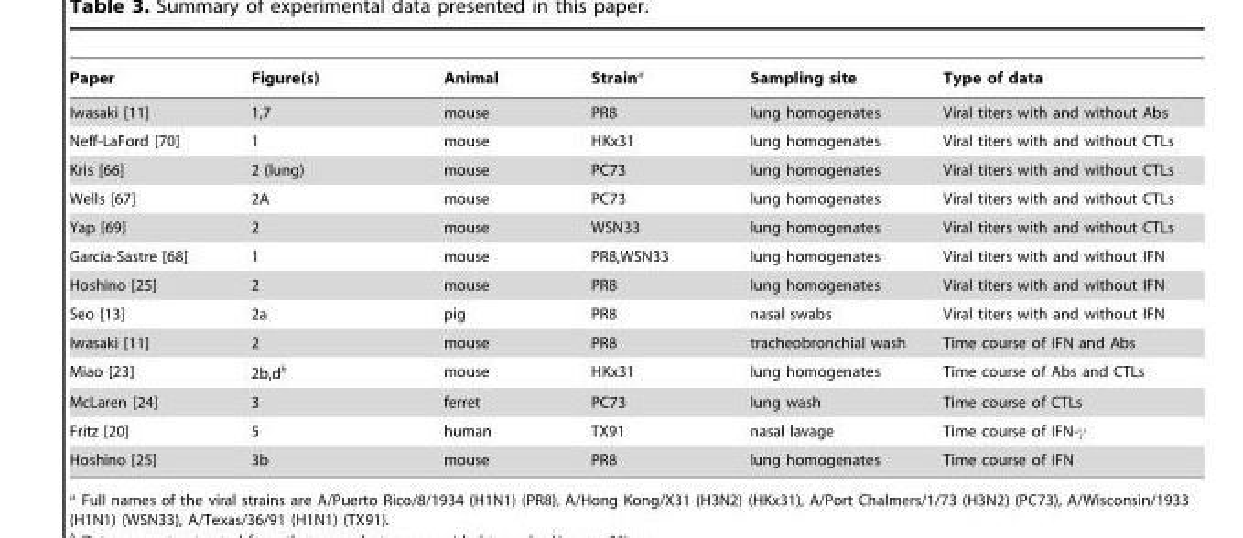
<table><thead><tr><td>Paper</td><td>Figure(s)</td><td>Animal</td><td>Straina</td><td>Sampling site</td><td>Type of data</td></tr></thead><tbody><tr><td>Iwasaki [11]</td><td>1,7</td><td>mouse</td><td>PR8</td><td>lung homogenates</td><td>Viral titers with and without Abs</td></tr><tr><td>Neff-LaFord [70]</td><td>1</td><td>mouse</td><td>HKx31</td><td>lung homogenates</td><td>Viral titers with and without CTLs</td></tr><tr><td>Kris [66]</td><td>2 (lung)</td><td>mouse</td><td>PC73</td><td>lung homogenates</td><td>Viral titers with and without CTLs</td></tr><tr><td>Wells [67]</td><td>2A</td><td>mouse</td><td>PC73</td><td>lung homogenates</td><td>Viral titers with and without CTLs</td></tr><tr><td>Yap [69]</td><td>2</td><td>mouse</td><td>WSN33</td><td>lung homogenates</td><td>Viral titers with and without CTLs</td></tr><tr><td>Garcı´a-Sastre [68]</td><td>1</td><td>mouse</td><td>PR8,WSN33</td><td>lung homogenates</td><td>Viral titers with and without IFN</td></tr><tr><td>Hoshino [25]</td><td>2</td><td>mouse</td><td>PR8</td><td>lung homogenates</td><td>Viral titers with and without IFN</td></tr><tr><td>Seo [13]</td><td>2a</td><td>pig</td><td>PR8</td><td>nasal swabs</td><td>Viral titers with and without IFN</td></tr><tr><td>Iwasaki [11]</td><td>2</td><td>mouse</td><td>PR8</td><td>tracheobronchial wash</td><td>Time course of IFN and Abs</td></tr><tr><td>Miao [23]</td><td>2b,db</td><td>mouse</td><td>HKx31</td><td>lung homogenates</td><td>Time course of Abs and CTLs</td></tr><tr><td>McLaren [24]</td><td>3</td><td>ferret</td><td>PC73</td><td>lung wash</td><td>Time course of CTLs</td></tr><tr><td>Fritz [20]</td><td>5</td><td>human</td><td>TX91</td><td>nasal lavage</td><td>Time course of IFN-c</td></tr><tr><td>Hoshino [25]</td><td>3b</td><td>mouse</td><td>PR8</td><td>lung homogenates</td><td>Time course of IFN</td></tr></tbody></table>